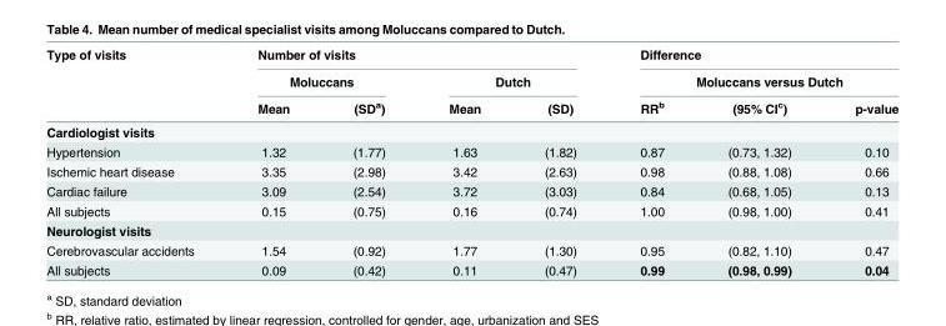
<table><thead><tr><td rowspan="3">Type of visits</td><td colspan="4">Number of visits</td><td rowspan="2" colspan="3">Difference Moluccans versus Dutch</td></tr><tr><td colspan="2">Moluccans</td><td colspan="2">Dutch</td></tr><tr><td>Mean</td><td>(SD<sup>a</sup>)</td><td>Mean</td><td>(SD)</td><td>RR<sup>b</sup></td><td>(95% CI<sup>c</sup>)</td><td>p-value</td></tr></thead><tbody><tr><td colspan="8">Cardiologist visits</td></tr><tr><td>Hypertension</td><td>1.32</td><td>(1.77)</td><td>1.63</td><td>(1.82)</td><td>0.87</td><td>(0.73, 1.32)</td><td>0.10</td></tr><tr><td>Ischemic heart disease</td><td>3.35</td><td>(2.98)</td><td>3.42</td><td>(2.63)</td><td>0.98</td><td>(0.88, 1.08)</td><td>0.66</td></tr><tr><td>Cardiac failure</td><td>3.09</td><td>(2.54)</td><td>3.72</td><td>(3.03)</td><td>0.84</td><td>(0.68, 1.05)</td><td>0.13</td></tr><tr><td>All subjects</td><td>0.15</td><td>(0.75)</td><td>0.16</td><td>(0.74)</td><td>1.00</td><td>(0.98, 1.00)</td><td>0.41</td></tr><tr><td colspan="8">Neurologist visits</td></tr><tr><td>Cerebrovascular accidents</td><td>1.54</td><td>(0.92)</td><td>1.77</td><td>(1.30)</td><td>0.95</td><td>(0.82, 1.10)</td><td>0.47</td></tr><tr><td>All subjects</td><td>0.09</td><td>(0.42)</td><td>0.11</td><td>(0.47)</td><td>0.99</td><td>(0.98, 0.99)</td><td>0.04</td></tr></tbody></table>